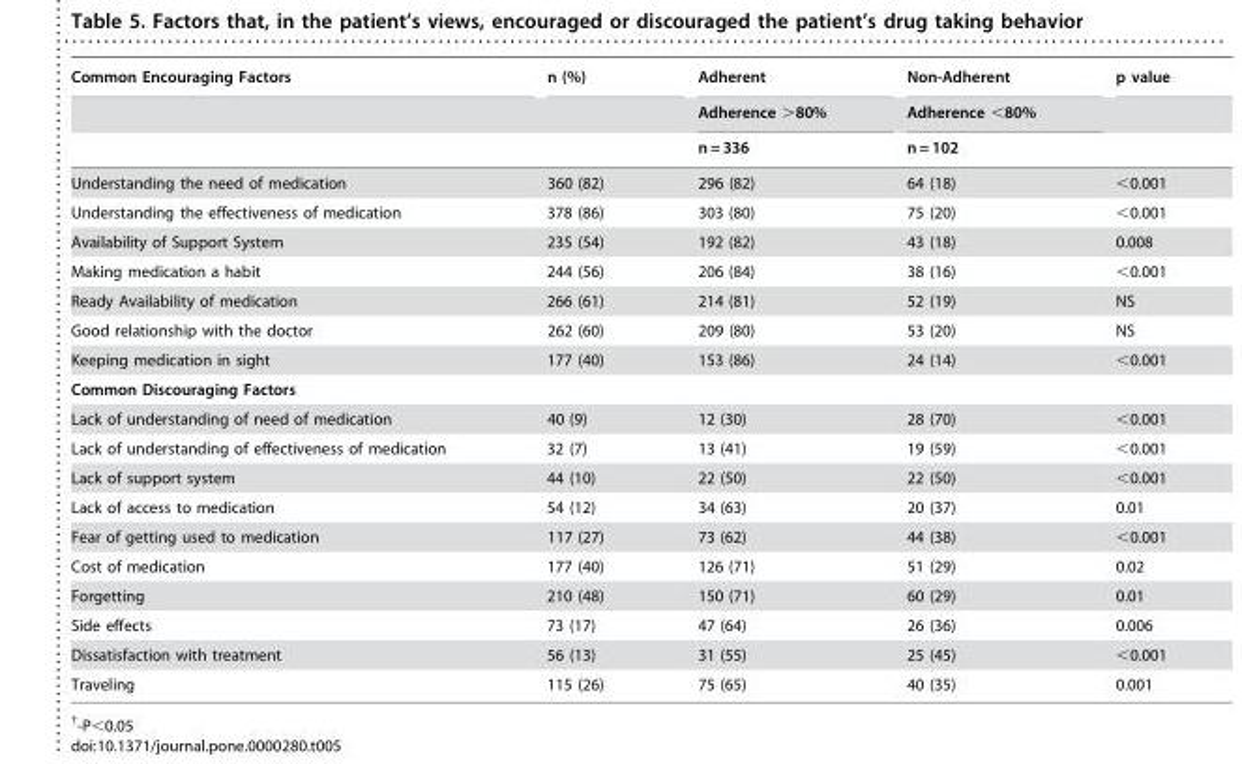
<table><thead><tr><td rowspan="3">Common Encouraging Factors</td><td rowspan="3">n (%)</td><td rowspan="3">Adherent Adherence &gt;80% n = 336</td><td rowspan="3">Non-Adherent Adherence &lt;80% n = 102</td><td rowspan="3">p value</td></tr><tr></tr><tr></tr></thead><tbody><tr><td>Understanding the need of medication</td><td>360 (82)</td><td>296 (82)</td><td>64 (18)</td><td>&lt;0.001</td></tr><tr><td>Understanding the effectiveness of medication</td><td>378 (86)</td><td>303 (80)</td><td>75 (20)</td><td>&lt;0.001</td></tr><tr><td>Availability of Support System</td><td>235 (54)</td><td>192 (82)</td><td>43 (18)</td><td>0.008</td></tr><tr><td>Making medication a habit</td><td>244 (56)</td><td>206 (84)</td><td>38 (16)</td><td>&lt;0.001</td></tr><tr><td>Ready Availability of medication</td><td>266 (61)</td><td>214 (81)</td><td>52 (19)</td><td>NS</td></tr><tr><td>Good relationship with the doctor</td><td>262 (60)</td><td>209 (80)</td><td>53 (20)</td><td>NS</td></tr><tr><td>Keeping medication in sight</td><td>177 (40)</td><td>153 (86)</td><td>24 (14)</td><td>&lt;0.001</td></tr><tr><td colspan="5">Common Discouraging Factors</td></tr><tr><td>Lack of understanding of need of medication</td><td>40 (9)</td><td>12 (30)</td><td>28 (70)</td><td>&lt;0.001</td></tr><tr><td>Lack of understanding of effectiveness of medication</td><td>32 (7)</td><td>13 (41)</td><td>19 (59)</td><td>&lt;0.001</td></tr><tr><td>Lack of support system</td><td>44 (10)</td><td>22 (50)</td><td>22 (50)</td><td>&lt;0.001</td></tr><tr><td>Lack of access to medication</td><td>54 (12)</td><td>34 (63)</td><td>20 (37)</td><td>0.01</td></tr><tr><td>Fear of getting used to medication</td><td>117 (27)</td><td>73 (62)</td><td>44 (38)</td><td>&lt;0.001</td></tr><tr><td>Cost of medication</td><td>177 (40)</td><td>126 (71)</td><td>51 (29)</td><td>0.02</td></tr><tr><td>Forgetting</td><td>210 (48)</td><td>150 (71)</td><td>60 (29)</td><td>0.01</td></tr><tr><td>Side effects</td><td>73 (17)</td><td>47 (64)</td><td>26 (36)</td><td>0.006</td></tr><tr><td>Dissatisfaction with treatment</td><td>56 (13)</td><td>31 (55)</td><td>25 (45)</td><td>&lt;0.001</td></tr><tr><td>Traveling</td><td>115 (26)</td><td>75 (65)</td><td>40 (35)</td><td>0.001</td></tr></tbody></table>